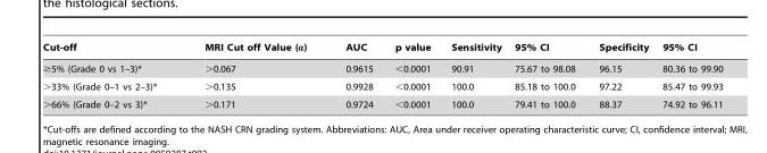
<table><thead><tr><td>Cut-off</td><td>MRI Cut off Value (α)</td><td>AUC</td><td>p value</td><td>Sensitivity</td><td>95% CI</td><td>Specificity</td><td>95% CI</td></tr></thead><tbody><tr><td>≥5% (Grade 0 vs 1–3)*</td><td>&gt;0.067</td><td>0.9615</td><td>&lt;0.0001</td><td>90.91</td><td>75.67 to 98.08</td><td>96.15</td><td>80.36 to 99.90</td></tr><tr><td>&gt;33% (Grade 0–1 vs 2–3)*</td><td>&gt;0.135</td><td>0.9928</td><td>&lt;0.0001</td><td>100.0</td><td>85.18 to 100.0</td><td>97.22</td><td>85.47 to 99.93</td></tr><tr><td>&gt;66% (Grade 0–2 vs 3)*</td><td>&gt;0.171</td><td>0.9724</td><td>&lt;0.0001</td><td>100.0</td><td>79.41 to 100.0</td><td>88.37</td><td>74.92 to 96.11</td></tr></tbody></table>